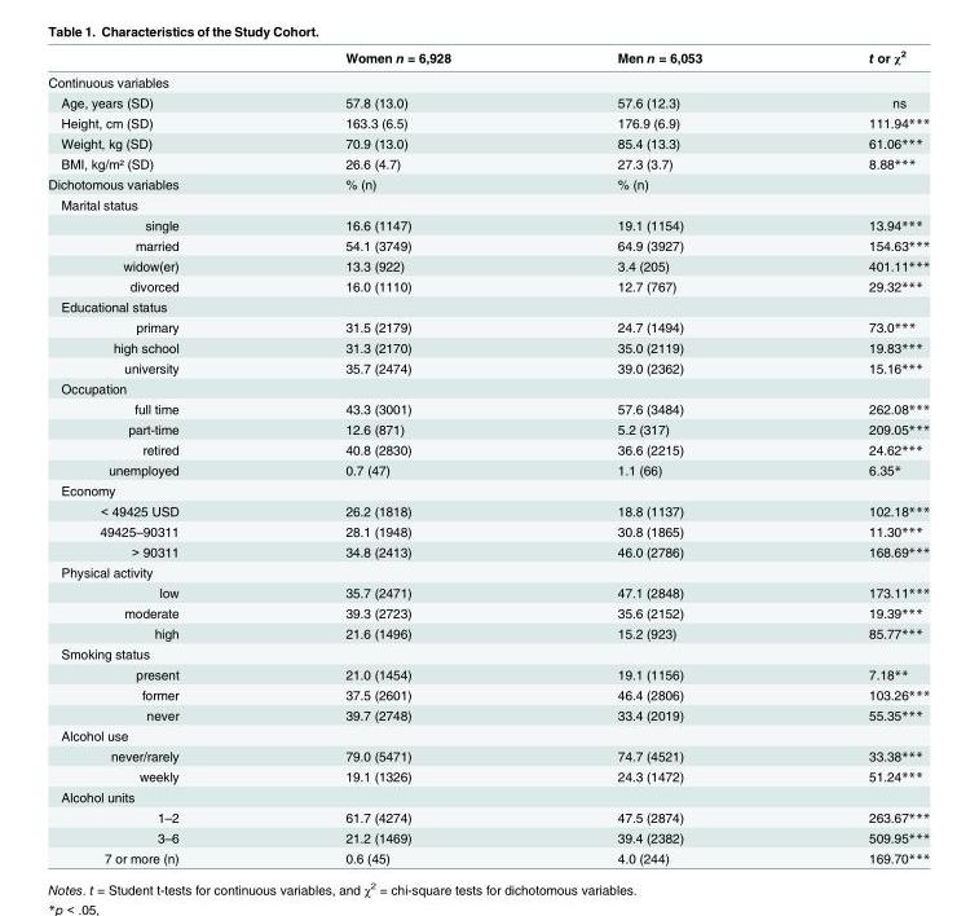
<table><thead><tr><td></td><td>Women n = 6,928</td><td>Men n = 6,053</td><td>t or χ<sup>2</sup></td></tr></thead><tbody><tr><td colspan="4">Continuous variables</td></tr><tr><td>Age, years (SD)</td><td>57.8 (13.0)</td><td>57.6 (12.3)</td><td>ns</td></tr><tr><td>Height, cm (SD)</td><td>163.3 (6.5)</td><td>176.9 (6.9)</td><td>111.94***</td></tr><tr><td>Weight, kg (SD)</td><td>70.9 (13.0)</td><td>85.4 (13.3)</td><td>61.06***</td></tr><tr><td>BMI, kg/m² (SD)</td><td>26.6 (4.7)</td><td>27.3 (3.7)</td><td>8.88***</td></tr><tr><td>Dichotomous variables</td><td>% (n)</td><td>% (n)</td><td></td></tr><tr><td colspan="4">Marital status</td></tr><tr><td>single</td><td>16.6 (1147)</td><td>19.1 (1154)</td><td>13.94***</td></tr><tr><td>married</td><td>54.1 (3749)</td><td>64.9 (3927)</td><td>154.63***</td></tr><tr><td>widow(er)</td><td>13.3 (922)</td><td>3.4 (205)</td><td>401.11***</td></tr><tr><td>divorced</td><td>16.0 (1110)</td><td>12.7 (767)</td><td>29.32***</td></tr><tr><td colspan="4">Educational status</td></tr><tr><td>primary</td><td>31.5 (2179)</td><td>24.7 (1494)</td><td>73.0***</td></tr><tr><td>high school</td><td>31.3 (2170)</td><td>35.0 (2119)</td><td>19.83***</td></tr><tr><td>university</td><td>35.7 (2474)</td><td>39.0 (2362)</td><td>15.16***</td></tr><tr><td colspan="4">Occupation</td></tr><tr><td>full time</td><td>43.3 (3001)</td><td>57.6 (3484)</td><td>262.08***</td></tr><tr><td>part-time</td><td>12.6 (871)</td><td>5.2 (317)</td><td>209.05***</td></tr><tr><td>retired</td><td>40.8 (2830)</td><td>36.6 (2215)</td><td>24.62***</td></tr><tr><td>unemployed</td><td>0.7 (47)</td><td>1.1 (66)</td><td>6.35*</td></tr><tr><td colspan="4">Economy</td></tr><tr><td>&lt; 49425 USD</td><td>26.2 (1818)</td><td>18.8 (1137)</td><td>102.18***</td></tr><tr><td>49425–90311</td><td>28.1 (1948)</td><td>30.8 (1865)</td><td>11.30***</td></tr><tr><td>&gt; 90311</td><td>34.8 (2413)</td><td>46.0 (2786)</td><td>168.69***</td></tr><tr><td colspan="4">Physical activity</td></tr><tr><td>low</td><td>35.7 (2471)</td><td>47.1 (2848)</td><td>173.11***</td></tr><tr><td>moderate</td><td>39.3 (2723)</td><td>35.6 (2152)</td><td>19.39***</td></tr><tr><td>high</td><td>21.6 (1496)</td><td>15.2 (923)</td><td>85.77***</td></tr><tr><td colspan="4">Smoking status</td></tr><tr><td>present</td><td>21.0 (1454)</td><td>19.1 (1156)</td><td>7.18**</td></tr><tr><td>former</td><td>37.5 (2601)</td><td>46.4 (2806)</td><td>103.26***</td></tr><tr><td>never</td><td>39.7 (2748)</td><td>33.4 (2019)</td><td>55.35***</td></tr><tr><td colspan="4">Alcohol use</td></tr><tr><td>never/rarely</td><td>79.0 (5471)</td><td>74.7 (4521)</td><td>33.38***</td></tr><tr><td>weekly</td><td>19.1 (1326)</td><td>24.3 (1472)</td><td>51.24***</td></tr><tr><td colspan="4">Alcohol units</td></tr><tr><td>1–2</td><td>61.7 (4274)</td><td>47.5 (2874)</td><td>263.67***</td></tr><tr><td>3–6</td><td>21.2 (1469)</td><td>39.4 (2382)</td><td>509.95***</td></tr><tr><td>7 or more (n)</td><td>0.6 (45)</td><td>4.0 (244)</td><td>169.70***</td></tr></tbody></table>